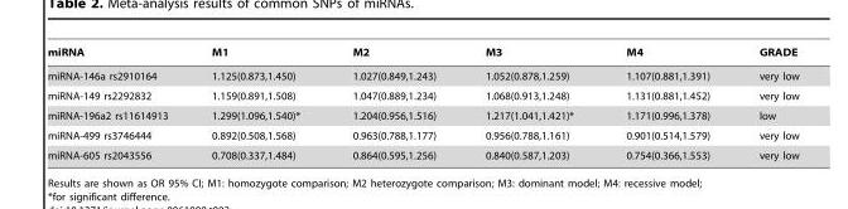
<table><thead><tr><td>miRNA</td><td>M1</td><td>M2</td><td>M3</td><td>M4</td><td>GRADE</td></tr></thead><tbody><tr><td>miRNA-146a rs2910164</td><td>1.125(0.873,1.450)</td><td>1.027(0.849,1.243)</td><td>1.052(0.878,1.259)</td><td>1.107(0.881,1.391)</td><td>very low</td></tr><tr><td>miRNA-149 rs2292832</td><td>1.159(0.891,1.508)</td><td>1.047(0.889,1.234)</td><td>1.068(0.913,1.248)</td><td>1.131(0.881,1.452)</td><td>very low</td></tr><tr><td>miRNA-196a2 rs11614913</td><td>1.299(1.096,1.540)*</td><td>1.204(0.956,1.516)</td><td>1.217(1.041,1.421)*</td><td>1.171(0.996,1.378)</td><td>low</td></tr><tr><td>miRNA-499 rs3746444</td><td>0.892(0.508,1.568)</td><td>0.963(0.788,1.177)</td><td>0.956(0.788,1.161)</td><td>0.901(0.514,1.579)</td><td>very low</td></tr><tr><td>miRNA-605 rs2043556</td><td>0.708(0.337,1.484)</td><td>0.864(0.595,1.256)</td><td>0.840(0.587,1.203)</td><td>0.754(0.366,1.553)</td><td>very low</td></tr></tbody></table>